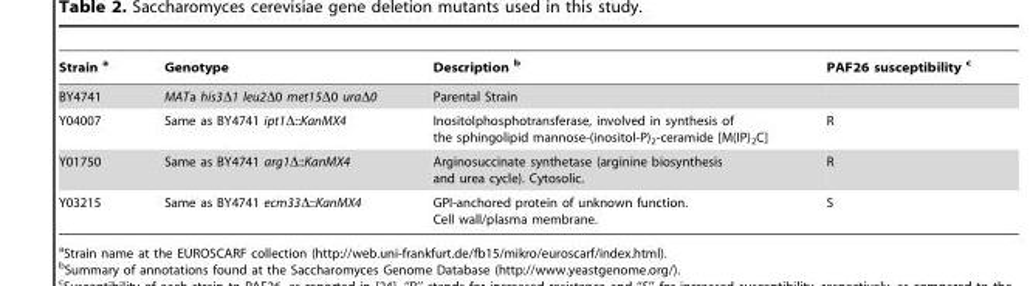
<table><thead><tr><td>Strain a</td><td>Genotype</td><td>Description b</td><td>PAF26 susceptibility c</td></tr></thead><tbody><tr><td>BY4741</td><td>MATa his3Δ1 leu2Δ0 met15Δ0 uraΔ0</td><td>Parental Strain</td><td></td></tr><tr><td>Y04007</td><td>Same as BY4741 ipt1Δ::KanMX4</td><td>Inositolphosphotransferase, involved in synthesis of the sphingolipid mannose-(inositol-P)<sub>2</sub>-ceramide [M(IP)<sub>2</sub>C]</td><td>R</td></tr><tr><td>Y01750</td><td>Same as BY4741 arg1Δ::KanMX4</td><td>Arginosuccinate synthetase (arginine biosynthesis and urea cycle). Cytosolic.</td><td>R</td></tr><tr><td>Y03215</td><td>Same as BY4741 ecm33Δ::KanMX4</td><td>GPI-anchored protein of unknown function. Cell wall/plasma membrane.</td><td>S</td></tr></tbody></table>